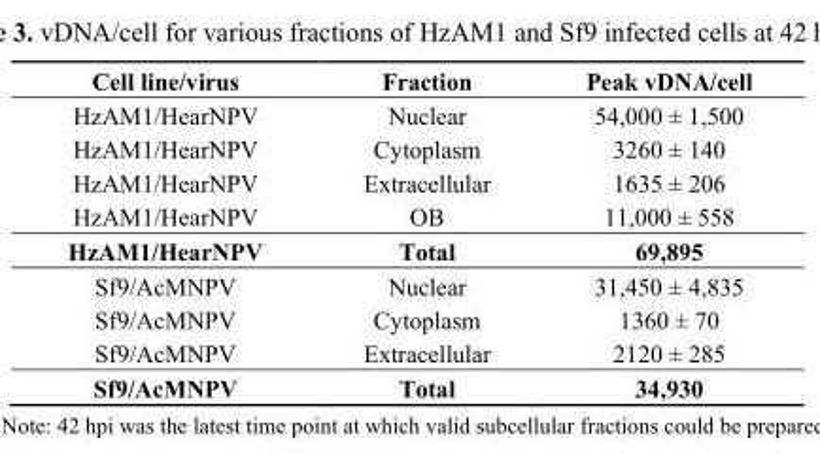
<table><thead><tr><td>Cell line/virus</td><td>Fraction</td><td>Peak vDNA/cell</td></tr></thead><tbody><tr><td>HzAM1/HearNPV</td><td>Nuclear</td><td>54,000 ± 1,500</td></tr><tr><td>HzAM1/HearNPV</td><td>Cytoplasm</td><td>3260 ± 140</td></tr><tr><td>HzAM1/HearNPV</td><td>Extracellular</td><td>1635 ± 206</td></tr><tr><td>HzAM1/HearNPV</td><td>OB</td><td>11,000 ± 558</td></tr><tr><td>HzAM1/HearNPV</td><td>Total</td><td>69,895</td></tr><tr><td>Sf9/AcMNPV</td><td>Nuclear</td><td>31,450 ± 4,835</td></tr><tr><td>Sf9/AcMNPV</td><td>Cytoplasm</td><td>1360 ± 70</td></tr><tr><td>Sf9/AcMNPV</td><td>Extracellular</td><td>2120 ± 285</td></tr><tr><td>Sf9/AcMNPV</td><td>Total</td><td>34,930</td></tr></tbody></table>